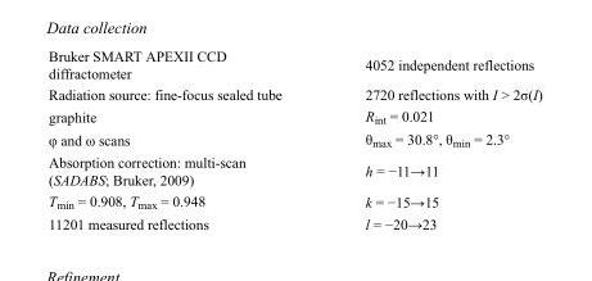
<table><tbody><tr><td>Bruker SMART APEXII CCD diffractometer</td><td>4052 independent reflections</td></tr><tr><td>Radiation source: fine-focus sealed tube</td><td>2720 reflections with I &gt; 2σ(I)</td></tr><tr><td>graphite</td><td>R<sub>int</sub> = 0.021</td></tr><tr><td>φ and ω scans</td><td>θ<sub>max</sub> = 30.8°, θ<sub>min</sub> = 2.3°</td></tr><tr><td>Absorption correction: multi-scan (SADABS; Bruker, 2009)</td><td>h = −11→11</td></tr><tr><td>T<sub>min</sub> = 0.908, T<sub>max</sub> = 0.948</td><td>k = −15→15</td></tr><tr><td>11201 measured reflections</td><td>l = −20→23</td></tr></tbody></table>